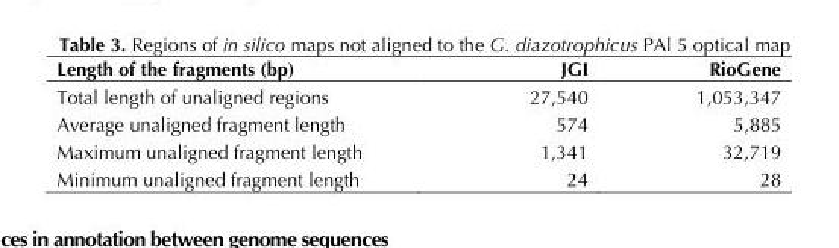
<table><thead><tr><td>Length of the fragments (bp)</td><td>JGI</td><td>RioGene</td></tr></thead><tbody><tr><td>Total length of unaligned regions</td><td>27,540</td><td>1,053,347</td></tr><tr><td>Average unaligned fragment length</td><td>574</td><td>5,885</td></tr><tr><td>Maximum unaligned fragment length</td><td>1,341</td><td>32,719</td></tr><tr><td>Minimum unaligned fragment length</td><td>24</td><td>28</td></tr></tbody></table>